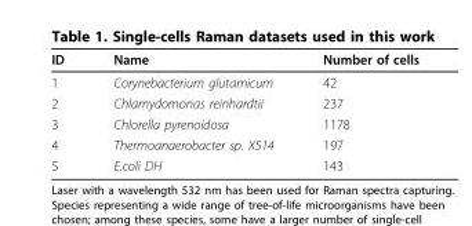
<table><thead><tr><td>ID</td><td>Name</td><td>Number of cells</td></tr></thead><tbody><tr><td>1</td><td>Corynebacterium glutamicum</td><td>42</td></tr><tr><td>2</td><td>Chlamydomonas reinhardtii</td><td>237</td></tr><tr><td>3</td><td>Chlorella pyrenoidosa</td><td>1178</td></tr><tr><td>4</td><td>Thermoanaerobacter sp. X514</td><td>197</td></tr><tr><td>5</td><td>E.coli DH</td><td>143</td></tr></tbody></table>